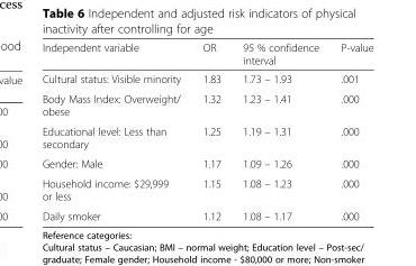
<table><thead><tr><td>Independent variable</td><td>OR</td><td>95 % confidence interval</td><td>P-value</td></tr></thead><tbody><tr><td>Cultural status: Visible minority</td><td>1.83</td><td>1.73 – 1.93</td><td>.001</td></tr><tr><td>Body Mass Index: Overweight/ obese</td><td>1.32</td><td>1.23 – 1.41</td><td>.000</td></tr><tr><td>Educational level: Less than secondary</td><td>1.25</td><td>1.19 – 1.31</td><td>.000</td></tr><tr><td>Gender: Male</td><td>1.17</td><td>1.09 – 1.26</td><td>.000</td></tr><tr><td>Household income: $29,999 or less</td><td>1.15</td><td>1.08 – 1.23</td><td>.000</td></tr><tr><td>Daily smoker</td><td>1.12</td><td>1.08 – 1.17</td><td>.000</td></tr></tbody></table>